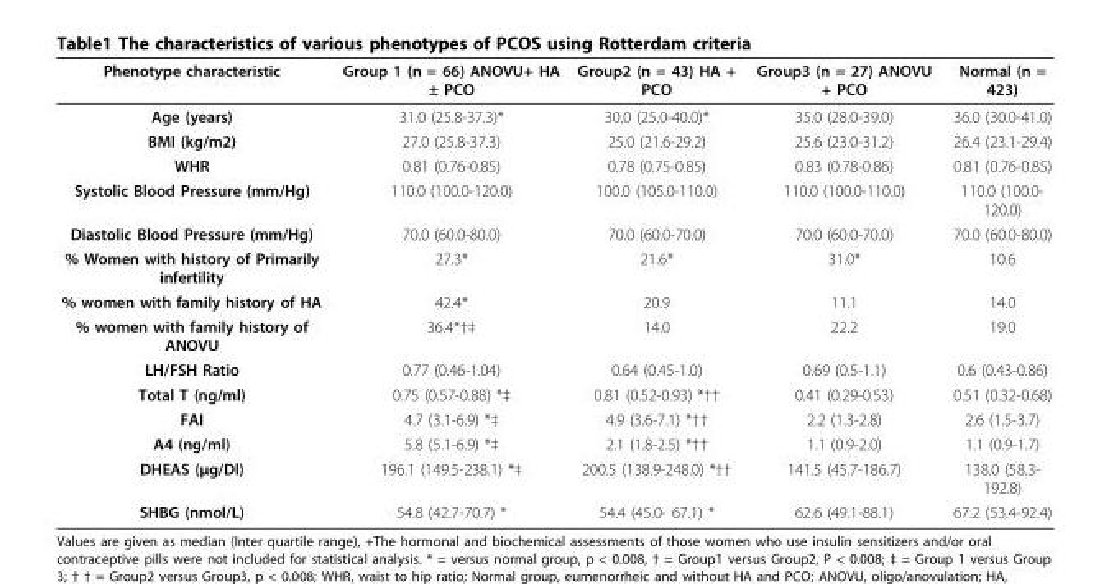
<table><thead><tr><td>Phenotype characteristic</td><td>Group 1 (n = 66) ANOVU+ HA ± PCO</td><td>Group2 (n = 43) HA + PCO</td><td>Group3 (n = 27) ANOVU + PCO</td><td>Normal (n = 423)</td></tr></thead><tbody><tr><td>Age (years)</td><td>31.0 (25.8-37.3)*</td><td>30.0 (25.0-40.0)*</td><td>35.0 (28.0-39.0)</td><td>36.0 (30.0-41.0)</td></tr><tr><td>BMI (kg/m2)</td><td>27.0 (25.8-37.3)</td><td>25.0 (21.6-29.2)</td><td>25.6 (23.0-31.2)</td><td>26.4 (23.1-29.4)</td></tr><tr><td>WHR</td><td>0.81 (0.76-0.85)</td><td>0.78 (0.75-0.85)</td><td>0.83 (0.78-0.86)</td><td>0.81 (0.76-0.85)</td></tr><tr><td>Systolic Blood Pressure (mm/Hg)</td><td>110.0 (100.0-120.0)</td><td>100.0 (105.0-110.0)</td><td>110.0 (100.0-110.0)</td><td>110.0 (100.0- 120.0)</td></tr><tr><td>Diastolic Blood Pressure (mm/Hg)</td><td>70.0 (60.0-80.0)</td><td>70.0 (60.0-70.0)</td><td>70.0 (60.0-70.0)</td><td>70.0 (60.0-80.0)</td></tr><tr><td>% Women with history of Primarily infertility</td><td>27.3*</td><td>21.6*</td><td>31.0*</td><td>10.6</td></tr><tr><td>% women with family history of HA</td><td>42.4*</td><td>20.9</td><td>11.1</td><td>14.0</td></tr><tr><td>% women with family history of ANOVU</td><td>36.4*†‡</td><td>14.0</td><td>22.2</td><td>19.0</td></tr><tr><td>LH/FSH Ratio</td><td>0.77 (0.46-1.04)</td><td>0.64 (0.45-1.0)</td><td>0.69 (0.5-1.1)</td><td>0.6 (0.43-0.86)</td></tr><tr><td>Total T (ng/ml)</td><td>0.75 (0.57-0.88) *‡</td><td>0.81 (0.52-0.93) *††</td><td>0.41 (0.29-0.53)</td><td>0.51 (0.32-0.68)</td></tr><tr><td>FAI</td><td>4.7 (3.1-6.9) *‡</td><td>4.9 (3.6-7.1) *††</td><td>2.2 (1.3-2.8)</td><td>2.6 (1.5-3.7)</td></tr><tr><td>A4 (ng/ml)</td><td>5.8 (5.1-6.9) *‡</td><td>2.1 (1.8-2.5) *††</td><td>1.1 (0.9-2.0)</td><td>1.1 (0.9-1.7)</td></tr><tr><td>DHEAS (μg/Dl)</td><td>196.1 (149.5-238.1) *‡</td><td>200.5 (138.9-248.0) *††</td><td>141.5 (45.7-186.7)</td><td>138.0 (58.3- 192.8)</td></tr><tr><td>SHBG (nmol/L)</td><td>54.8 (42.7-70.7) *</td><td>54.4 (45.0- 67.1) *</td><td>62.6 (49.1-88.1)</td><td>67.2 (53.4-92.4)</td></tr></tbody></table>